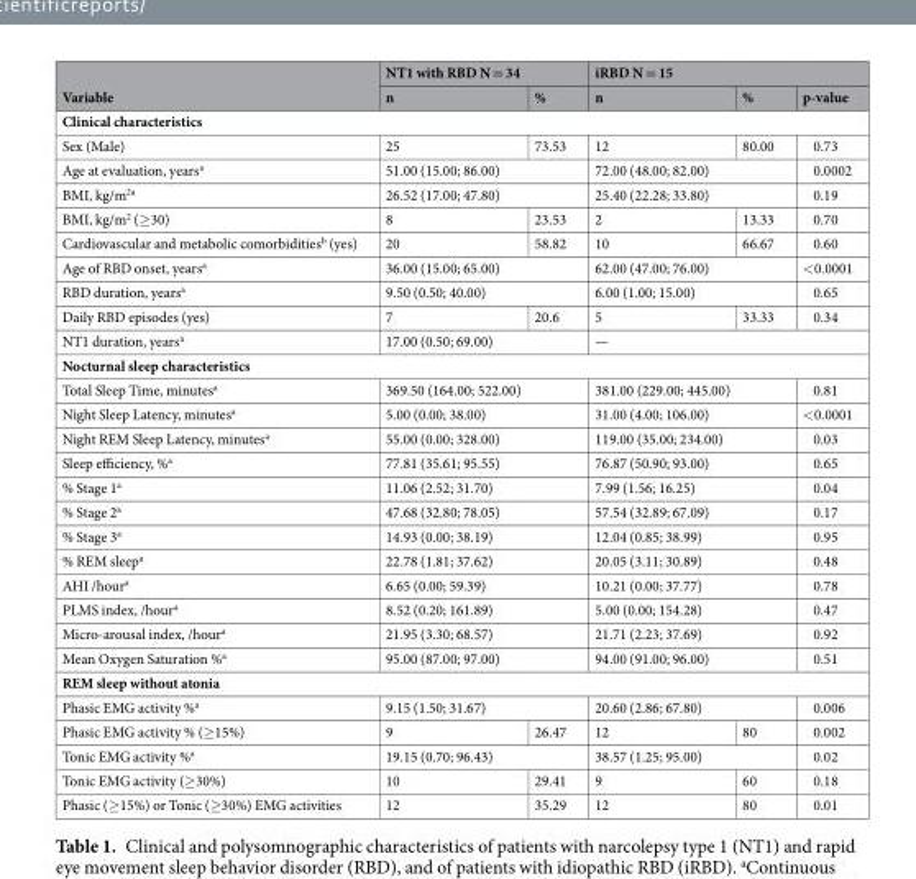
<table><thead><tr><td rowspan="2">Variable</td><td colspan="2">NT1 with RBD N = 34</td><td colspan="3">iRBD N = 15</td></tr><tr><td>n</td><td>%</td><td>n</td><td>%</td><td>p-value</td></tr></thead><tbody><tr><td colspan="6">Clinical characteristics</td></tr><tr><td>Sex (Male)</td><td>25</td><td>73.53</td><td>12</td><td>80.00</td><td>0.73</td></tr><tr><td>Age at evaluation, years<sup>a</sup></td><td colspan="2">51.00 (15.00; 86.00)</td><td colspan="2">72.00 (48.00; 82.00)</td><td>0.0002</td></tr><tr><td>BMI, kg/m<sup>2a</sup></td><td colspan="2">26.52 (17.00; 47.80)</td><td colspan="2">25.40 (22.28; 33.80)</td><td>0.19</td></tr><tr><td>BMI, kg/m<sup>2</sup> (≥30)</td><td>8</td><td>23.53</td><td>2</td><td>13.33</td><td>0.70</td></tr><tr><td>Cardiovascular and metabolic comorbidities<sup>b</sup> (yes)</td><td>20</td><td>58.82</td><td>10</td><td>66.67</td><td>0.60</td></tr><tr><td>Age of RBD onset, years<sup>a</sup></td><td colspan="2">36.00 (15.00; 65.00)</td><td colspan="2">62.00 (47.00; 76.00)</td><td>&lt;0.0001</td></tr><tr><td>RBD duration, years<sup>a</sup></td><td colspan="2">9.50 (0.50; 40.00)</td><td colspan="2">6.00 (1.00; 15.00)</td><td>0.65</td></tr><tr><td>Daily RBD episodes (yes)</td><td>7</td><td>20.6</td><td>5</td><td>33.33</td><td>0.34</td></tr><tr><td>NT1 duration, years<sup>a</sup></td><td colspan="2">17.00 (0.50; 69.00)</td><td colspan="3">—</td></tr><tr><td colspan="6">Nocturnal sleep characteristics</td></tr><tr><td>Total Sleep Time, minutes<sup>a</sup></td><td colspan="2">369.50 (164.00; 522.00)</td><td colspan="2">381.00 (229.00; 445.00)</td><td>0.81</td></tr><tr><td>Night Sleep Latency, minutes<sup>a</sup></td><td colspan="2">5.00 (0.00; 38.00)</td><td colspan="2">31.00 (4.00; 106.00)</td><td>&lt;0.0001</td></tr><tr><td>Night REM Sleep Latency, minutes<sup>a</sup></td><td colspan="2">55.00 (0.00; 328.00)</td><td colspan="2">119.00 (35.00; 234.00)</td><td>0.03</td></tr><tr><td>Sleep efficiency, %<sup>a</sup></td><td colspan="2">77.81 (35.61; 95.55)</td><td colspan="2">76.87 (50.90; 93.00)</td><td>0.65</td></tr><tr><td>% Stage 1<sup>a</sup></td><td colspan="2">11.06 (2.52; 31.70)</td><td colspan="2">7.99 (1.56; 16.25)</td><td>0.04</td></tr><tr><td>% Stage 2<sup>a</sup></td><td colspan="2">47.68 (32.80; 78.05)</td><td colspan="2">57.54 (32.89; 67.09)</td><td>0.17</td></tr><tr><td>% Stage 3<sup>a</sup></td><td colspan="2">14.93 (0.00; 38.19)</td><td colspan="2">12.04 (0.85; 38.99)</td><td>0.95</td></tr><tr><td>% REM sleep<sup>a</sup></td><td colspan="2">22.78 (1.81; 37.62)</td><td colspan="2">20.05 (3.11; 30.89)</td><td>0.48</td></tr><tr><td>AHI /hour<sup>a</sup></td><td colspan="2">6.65 (0.00; 59.39)</td><td colspan="2">10.21 (0.00; 37.77)</td><td>0.78</td></tr><tr><td>PLMS index, /hour<sup>a</sup></td><td colspan="2">8.52 (0.20; 161.89)</td><td colspan="2">5.00 (0.00; 154.28)</td><td>0.47</td></tr><tr><td>Micro-arousal index, /hour<sup>a</sup></td><td colspan="2">21.95 (3.30; 68.57)</td><td colspan="2">21.71 (2.23; 37.69)</td><td>0.92</td></tr><tr><td>Mean Oxygen Saturation %<sup>a</sup></td><td colspan="2">95.00 (87.00; 97.00)</td><td colspan="2">94.00 (91.00; 96.00)</td><td>0.51</td></tr><tr><td colspan="6">REM sleep without atonia</td></tr><tr><td>Phasic EMG activity %<sup>a</sup></td><td colspan="2">9.15 (1.50; 31.67)</td><td colspan="2">20.60 (2.86; 67.80)</td><td>0.006</td></tr><tr><td>Phasic EMG activity % (≥15%)</td><td>9</td><td>26.47</td><td>12</td><td>80</td><td>0.002</td></tr><tr><td>Tonic EMG activity %<sup>a</sup></td><td colspan="2">19.15 (0.70; 96.43)</td><td colspan="2">38.57 (1.25; 95.00)</td><td>0.02</td></tr><tr><td>Tonic EMG activity (≥30%)</td><td>10</td><td>29.41</td><td>9</td><td>60</td><td>0.18</td></tr><tr><td>Phasic (≥15%) or Tonic (≥30%) EMG activities</td><td>12</td><td>35.29</td><td>12</td><td>80</td><td>0.01</td></tr></tbody></table>